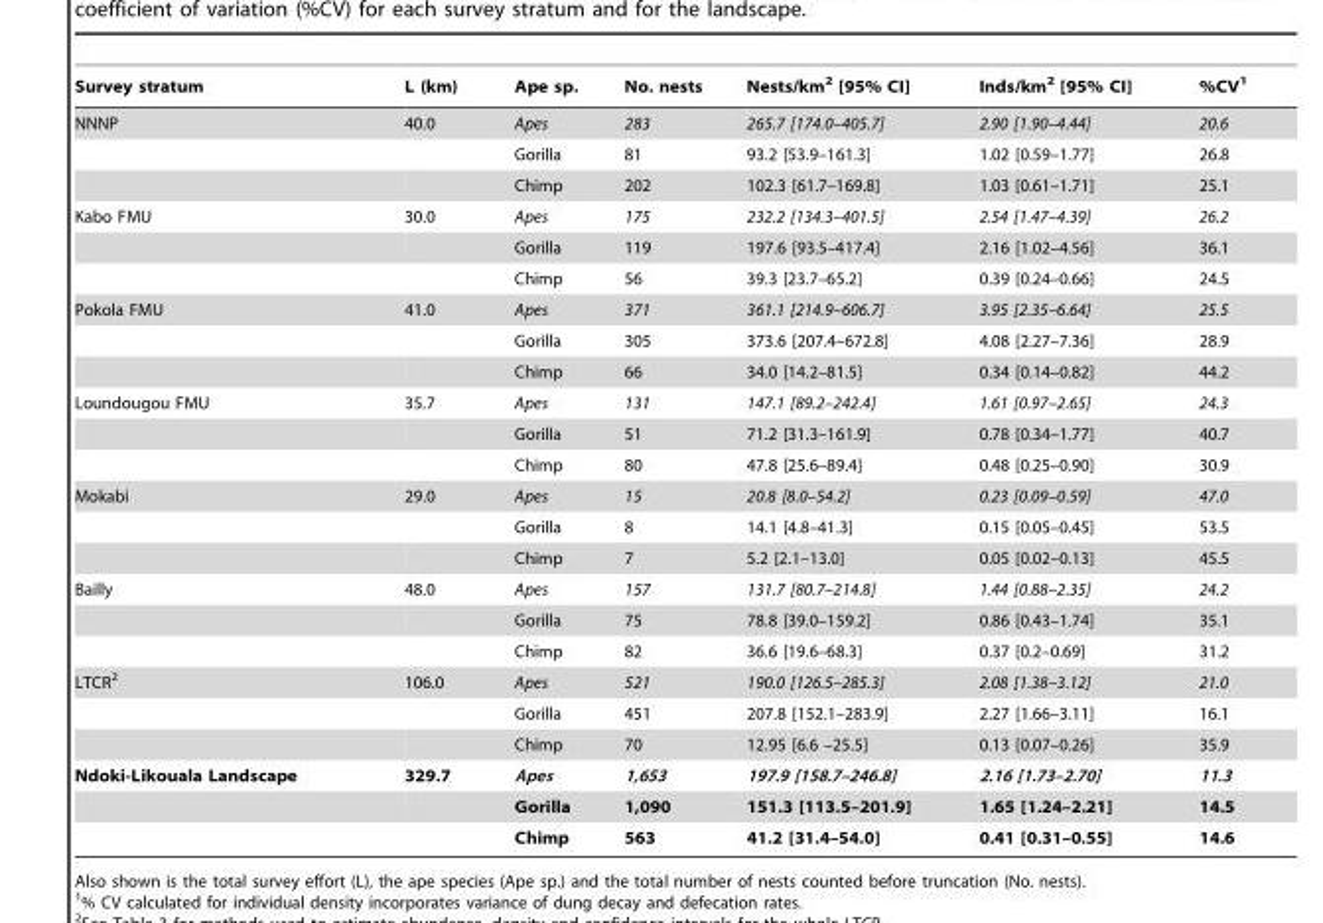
<table><thead><tr><td>Survey stratum</td><td>L (km)</td><td>Ape sp.</td><td>No. nests</td><td>Nests/km<sup>2</sup> [95% CI]</td><td>Inds/km<sup>2</sup> [95% CI]</td><td>%CV<sup>1</sup></td></tr></thead><tbody><tr><td rowspan="3">NNNP</td><td>40.0</td><td>Apes</td><td>283</td><td>265.7 [174.0–405.7]</td><td>2.90 [1.90–4.44]</td><td>20.6</td></tr><tr><td></td><td>Gorilla</td><td>81</td><td>93.2 [53.9–161.3]</td><td>1.02 [0.59–1.77]</td><td>26.8</td></tr><tr><td></td><td>Chimp</td><td>202</td><td>102.3 [61.7–169.8]</td><td>1.03 [0.61–1.71]</td><td>25.1</td></tr><tr><td rowspan="3">Kabo FMU</td><td>30.0</td><td>Apes</td><td>175</td><td>232.2 [134.3–401.5]</td><td>2.54 [1.47–4.39]</td><td>26.2</td></tr><tr><td></td><td>Gorilla</td><td>119</td><td>197.6 [93.5–417.4]</td><td>2.16 [1.02–4.56]</td><td>36.1</td></tr><tr><td></td><td>Chimp</td><td>56</td><td>39.3 [23.7–65.2]</td><td>0.39 [0.24–0.66]</td><td>24.5</td></tr><tr><td rowspan="3">Pokola FMU</td><td>41.0</td><td>Apes</td><td>371</td><td>361.1 [214.9–606.7]</td><td>3.95 [2.35–6.64]</td><td>25.5</td></tr><tr><td></td><td>Gorilla</td><td>305</td><td>373.6 [207.4–672.8]</td><td>4.08 [2.27–7.36]</td><td>28.9</td></tr><tr><td></td><td>Chimp</td><td>66</td><td>34.0 [14.2–81.5]</td><td>0.34 [0.14–0.82]</td><td>44.2</td></tr><tr><td rowspan="3">Loundougou FMU</td><td>35.7</td><td>Apes</td><td>131</td><td>147.1 [89.2–242.4]</td><td>1.61 [0.97–2.65]</td><td>24.3</td></tr><tr><td></td><td>Gorilla</td><td>51</td><td>71.2 [31.3–161.9]</td><td>0.78 [0.34–1.77]</td><td>40.7</td></tr><tr><td></td><td>Chimp</td><td>80</td><td>47.8 [25.6–89.4]</td><td>0.48 [0.25–0.90]</td><td>30.9</td></tr><tr><td rowspan="3">Mokabi</td><td>29.0</td><td>Apes</td><td>15</td><td>20.8 [8.0–54.2]</td><td>0.23 [0.09–0.59]</td><td>47.0</td></tr><tr><td></td><td>Gorilla</td><td>8</td><td>14.1 [4.8–41.3]</td><td>0.15 [0.05–0.45]</td><td>53.5</td></tr><tr><td></td><td>Chimp</td><td>7</td><td>5.2 [2.1–13.0]</td><td>0.05 [0.02–0.13]</td><td>45.5</td></tr><tr><td rowspan="3">Bailly</td><td>48.0</td><td>Apes</td><td>157</td><td>131.7 [80.7–214.8]</td><td>1.44 [0.88–2.35]</td><td>24.2</td></tr><tr><td></td><td>Gorilla</td><td>75</td><td>78.8 [39.0–159.2]</td><td>0.86 [0.43–1.74]</td><td>35.1</td></tr><tr><td></td><td>Chimp</td><td>82</td><td>36.6 [19.6–68.3]</td><td>0.37 [0.2–0.69]</td><td>31.2</td></tr><tr><td rowspan="3">LTCR<sup>2</sup></td><td>106.0</td><td>Apes</td><td>521</td><td>190.0 [126.5–285.3]</td><td>2.08 [1.38–3.12]</td><td>21.0</td></tr><tr><td></td><td>Gorilla</td><td>451</td><td>207.8 [152.1–283.9]</td><td>2.27 [1.66–3.11]</td><td>16.1</td></tr><tr><td></td><td>Chimp</td><td>70</td><td>12.95 [6.6 –25.5]</td><td>0.13 [0.07–0.26]</td><td>35.9</td></tr><tr><td rowspan="3">Ndoki-Likouala Landscape</td><td>329.7</td><td>Apes</td><td>1,653</td><td>197.9 [158.7–246.8]</td><td>2.16 [1.73–2.70]</td><td>11.3</td></tr><tr><td></td><td>Gorilla</td><td>1,090</td><td>151.3 [113.5–201.9]</td><td>1.65 [1.24–2.21]</td><td>14.5</td></tr><tr><td></td><td>Chimp</td><td>563</td><td>41.2 [31.4–54.0]</td><td>0.41 [0.31–0.55]</td><td>14.6</td></tr></tbody></table>